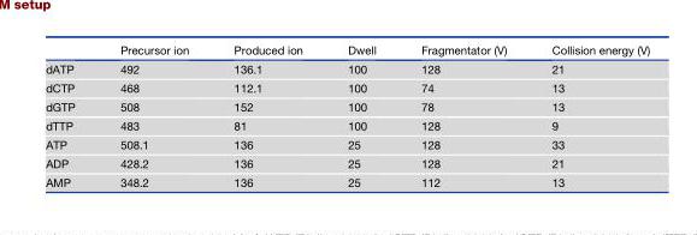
<table><thead><tr><td></td><td>Precursor ion</td><td>Produced ion</td><td>Dwell</td><td>Fragmentator (V)</td><td>Collision energy (V)</td></tr></thead><tbody><tr><td>dATP</td><td>492</td><td>136.1</td><td>100</td><td>128</td><td>21</td></tr><tr><td>dCTP</td><td>468</td><td>112.1</td><td>100</td><td>74</td><td>13</td></tr><tr><td>dGTP</td><td>508</td><td>152</td><td>100</td><td>78</td><td>13</td></tr><tr><td>dTTP</td><td>483</td><td>81</td><td>100</td><td>128</td><td>9</td></tr><tr><td>ATP</td><td>508.1</td><td>136</td><td>25</td><td>128</td><td>33</td></tr><tr><td>ADP</td><td>428.2</td><td>136</td><td>25</td><td>128</td><td>21</td></tr><tr><td>AMP</td><td>348.2</td><td>136</td><td>25</td><td>112</td><td>13</td></tr></tbody></table>